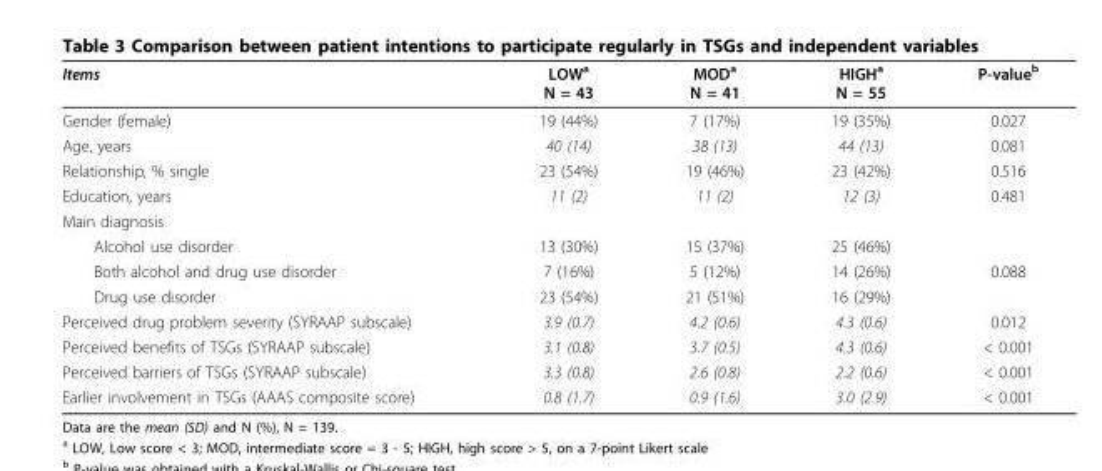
<table><thead><tr><td>Items</td><td>LOW<sup>a</sup> N = 43</td><td>MOD<sup>a</sup> N = 41</td><td>HIGH<sup>a</sup> N = 55</td><td>P-value<sup>b</sup></td></tr></thead><tbody><tr><td>Gender (female)</td><td>19 (44%)</td><td>7 (17%)</td><td>19 (35%)</td><td>0.027</td></tr><tr><td>Age, years</td><td>40 (14)</td><td>38 (13)</td><td>44 (13)</td><td>0.081</td></tr><tr><td>Relationship, % single</td><td>23 (54%)</td><td>19 (46%)</td><td>23 (42%)</td><td>0.516</td></tr><tr><td>Education, years</td><td>11 (2)</td><td>11 (2)</td><td>12 (3)</td><td>0.481</td></tr><tr><td colspan="5">Main diagnosis</td></tr><tr><td>Alcohol use disorder</td><td>13 (30%)</td><td>15 (37%)</td><td>25 (46%)</td><td></td></tr><tr><td>Both alcohol and drug use disorder</td><td>7 (16%)</td><td>5 (12%)</td><td>14 (26%)</td><td>0.088</td></tr><tr><td>Drug use disorder</td><td>23 (54%)</td><td>21 (51%)</td><td>16 (29%)</td><td></td></tr><tr><td>Perceived drug problem severity (SYRAAP subscale)</td><td>3.9 (0.7)</td><td>4.2 (0.6)</td><td>4.3 (0.6)</td><td>0.012</td></tr><tr><td>Perceived benefits of TSGs (SYRAAP subscale)</td><td>3.1 (0.8)</td><td>3.7 (0.5)</td><td>4.3 (0.6)</td><td>&lt; 0.001</td></tr><tr><td>Perceived barriers of TSGs (SYRAAP subscale)</td><td>3.3 (0.8)</td><td>2.6 (0.8)</td><td>2.2 (0.6)</td><td>&lt; 0.001</td></tr><tr><td>Earlier involvement in TSGs (AAAS composite score)</td><td>0.8 (1.7)</td><td>0.9 (1.6)</td><td>3.0 (2.9)</td><td>&lt; 0.001</td></tr></tbody></table>